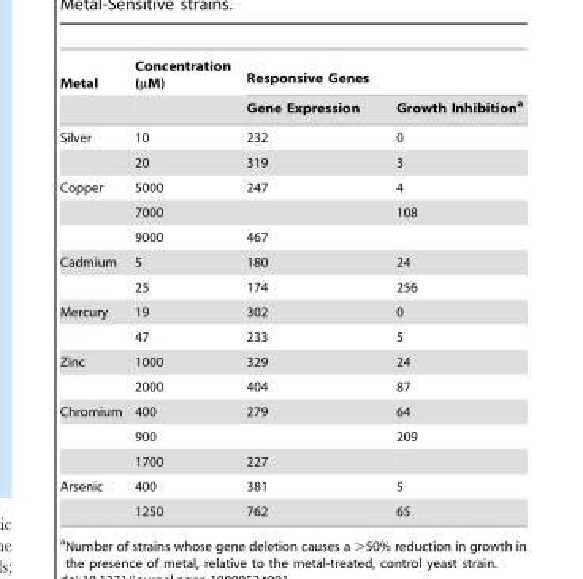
<table><thead><tr><td rowspan="2">Metal</td><td rowspan="2">Concentration (µM)</td><td colspan="2">Responsive Genes</td></tr><tr><td>Gene Expression</td><td>Growth Inhibition<sup>a</sup></td></tr></thead><tbody><tr><td rowspan="2">Silver</td><td>10</td><td>232</td><td>0</td></tr><tr><td>20</td><td>319</td><td>3</td></tr><tr><td rowspan="3">Copper</td><td>5000</td><td>247</td><td>4</td></tr><tr><td>7000</td><td></td><td>108</td></tr><tr><td>9000</td><td>467</td><td></td></tr><tr><td rowspan="2">Cadmium</td><td>5</td><td>180</td><td>24</td></tr><tr><td>25</td><td>174</td><td>256</td></tr><tr><td rowspan="2">Mercury</td><td>19</td><td>302</td><td>0</td></tr><tr><td>47</td><td>233</td><td>5</td></tr><tr><td rowspan="2">Zinc</td><td>1000</td><td>329</td><td>24</td></tr><tr><td>2000</td><td>404</td><td>87</td></tr><tr><td rowspan="3">Chromium</td><td>400</td><td>279</td><td>64</td></tr><tr><td>900</td><td></td><td>209</td></tr><tr><td>1700</td><td>227</td><td></td></tr><tr><td rowspan="2">Arsenic</td><td>400</td><td>381</td><td>5</td></tr><tr><td>1250</td><td>762</td><td>65</td></tr></tbody></table>